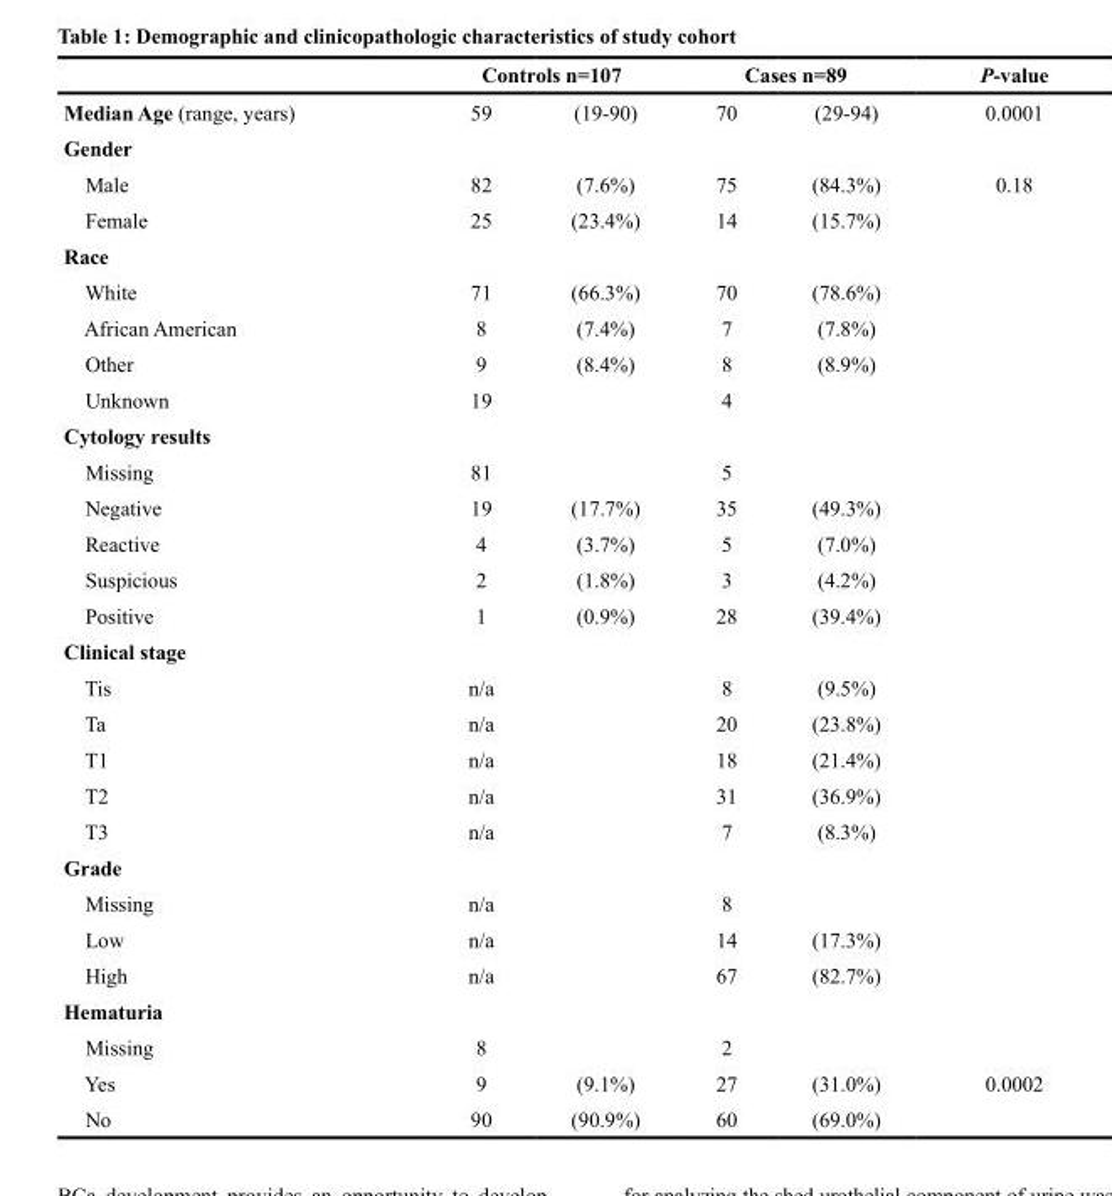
<table><thead><tr><td rowspan="2">Median Age (range, years)</td><td colspan="2">Controls n=107</td><td colspan="2">Cases n=89</td><td rowspan="2">P-value 0.0001</td></tr><tr><td>59</td><td>(19-90)</td><td>70</td><td>(29-94)</td></tr></thead><tbody><tr><td colspan="6">Gender</td></tr><tr><td>Male</td><td>82</td><td>(7.6%)</td><td>75</td><td>(84.3%)</td><td>0.18</td></tr><tr><td>Female</td><td>25</td><td>(23.4%)</td><td>14</td><td>(15.7%)</td><td></td></tr><tr><td colspan="6">Race</td></tr><tr><td>White</td><td>71</td><td>(66.3%)</td><td>70</td><td>(78.6%)</td><td></td></tr><tr><td>African American</td><td>8</td><td>(7.4%)</td><td>7</td><td>(7.8%)</td><td></td></tr><tr><td>Other</td><td>9</td><td>(8.4%)</td><td>8</td><td>(8.9%)</td><td></td></tr><tr><td>Unknown</td><td>19</td><td></td><td>4</td><td></td><td></td></tr><tr><td colspan="6">Cytology results</td></tr><tr><td>Missing</td><td>81</td><td></td><td>5</td><td></td><td></td></tr><tr><td>Negative</td><td>19</td><td>(17.7%)</td><td>35</td><td>(49.3%)</td><td></td></tr><tr><td>Reactive</td><td>4</td><td>(3.7%)</td><td>5</td><td>(7.0%)</td><td></td></tr><tr><td>Suspicious</td><td>2</td><td>(1.8%)</td><td>3</td><td>(4.2%)</td><td></td></tr><tr><td>Positive</td><td>1</td><td>(0.9%)</td><td>28</td><td>(39.4%)</td><td></td></tr><tr><td colspan="6">Clinical stage</td></tr><tr><td>Tis</td><td>n/a</td><td></td><td>8</td><td>(9.5%)</td><td></td></tr><tr><td>Ta</td><td>n/a</td><td></td><td>20</td><td>(23.8%)</td><td></td></tr><tr><td>T1</td><td>n/a</td><td></td><td>18</td><td>(21.4%)</td><td></td></tr><tr><td>T2</td><td>n/a</td><td></td><td>31</td><td>(36.9%)</td><td></td></tr><tr><td>T3</td><td>n/a</td><td></td><td>7</td><td>(8.3%)</td><td></td></tr><tr><td colspan="6">Grade</td></tr><tr><td>Missing</td><td>n/a</td><td></td><td>8</td><td></td><td></td></tr><tr><td>Low</td><td>n/a</td><td></td><td>14</td><td>(17.3%)</td><td></td></tr><tr><td>High</td><td>n/a</td><td></td><td>67</td><td>(82.7%)</td><td></td></tr><tr><td colspan="6">Hematuria</td></tr><tr><td>Missing</td><td>8</td><td></td><td>2</td><td></td><td></td></tr><tr><td>Yes</td><td>9</td><td>(9.1%)</td><td>27</td><td>(31.0%)</td><td>0.0002</td></tr><tr><td>No</td><td>90</td><td>(90.9%)</td><td>60</td><td>(69.0%)</td><td></td></tr></tbody></table>